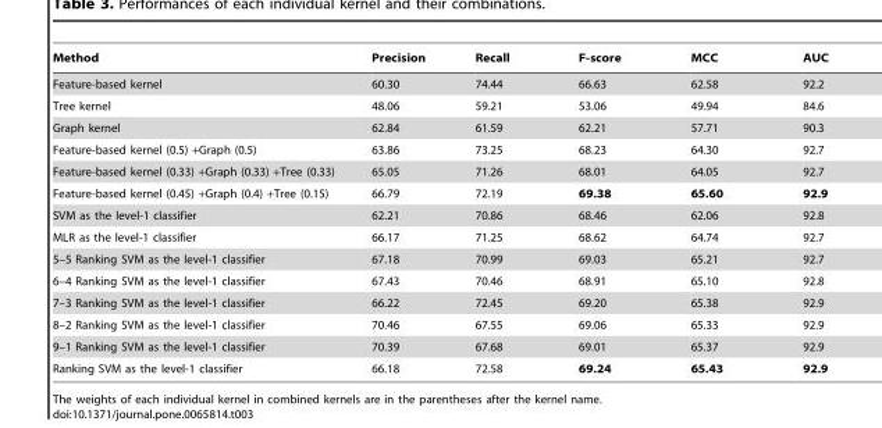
<table><thead><tr><td>Method</td><td>Precision</td><td>Recall</td><td>F-score</td><td>MCC</td><td>AUC</td></tr></thead><tbody><tr><td>Feature-based kernel</td><td>60.30</td><td>74.44</td><td>66.63</td><td>62.58</td><td>92.2</td></tr><tr><td>Tree kernel</td><td>48.06</td><td>59.21</td><td>53.06</td><td>49.94</td><td>84.6</td></tr><tr><td>Graph kernel</td><td>62.84</td><td>61.59</td><td>62.21</td><td>57.71</td><td>90.3</td></tr><tr><td>Feature-based kernel (0.5) +Graph (0.5)</td><td>63.86</td><td>73.25</td><td>68.23</td><td>64.30</td><td>92.7</td></tr><tr><td>Feature-based kernel (0.33) +Graph (0.33) +Tree (0.33)</td><td>65.05</td><td>71.26</td><td>68.01</td><td>64.05</td><td>92.7</td></tr><tr><td>Feature-based kernel (0.45) +Graph (0.4) +Tree (0.15)</td><td>66.79</td><td>72.19</td><td>69.38</td><td>65.60</td><td>92.9</td></tr><tr><td>SVM as the level-1 classifier</td><td>62.21</td><td>70.86</td><td>68.46</td><td>62.06</td><td>92.8</td></tr><tr><td>MLR as the level-1 classifier</td><td>66.17</td><td>71.25</td><td>68.62</td><td>64.74</td><td>92.7</td></tr><tr><td>5–5 Ranking SVM as the level-1 classifier</td><td>67.18</td><td>70.99</td><td>69.03</td><td>65.21</td><td>92.7</td></tr><tr><td>6–4 Ranking SVM as the level-1 classifier</td><td>67.43</td><td>70.46</td><td>68.91</td><td>65.10</td><td>92.8</td></tr><tr><td>7–3 Ranking SVM as the level-1 classifier</td><td>66.22</td><td>72.45</td><td>69.20</td><td>65.38</td><td>92.9</td></tr><tr><td>8–2 Ranking SVM as the level-1 classifier</td><td>70.46</td><td>67.55</td><td>69.06</td><td>65.33</td><td>92.9</td></tr><tr><td>9–1 Ranking SVM as the level-1 classifier</td><td>70.39</td><td>67.68</td><td>69.01</td><td>65.37</td><td>92.9</td></tr><tr><td>Ranking SVM as the level-1 classifier</td><td>66.18</td><td>72.58</td><td>69.24</td><td>65.43</td><td>92.9</td></tr></tbody></table>